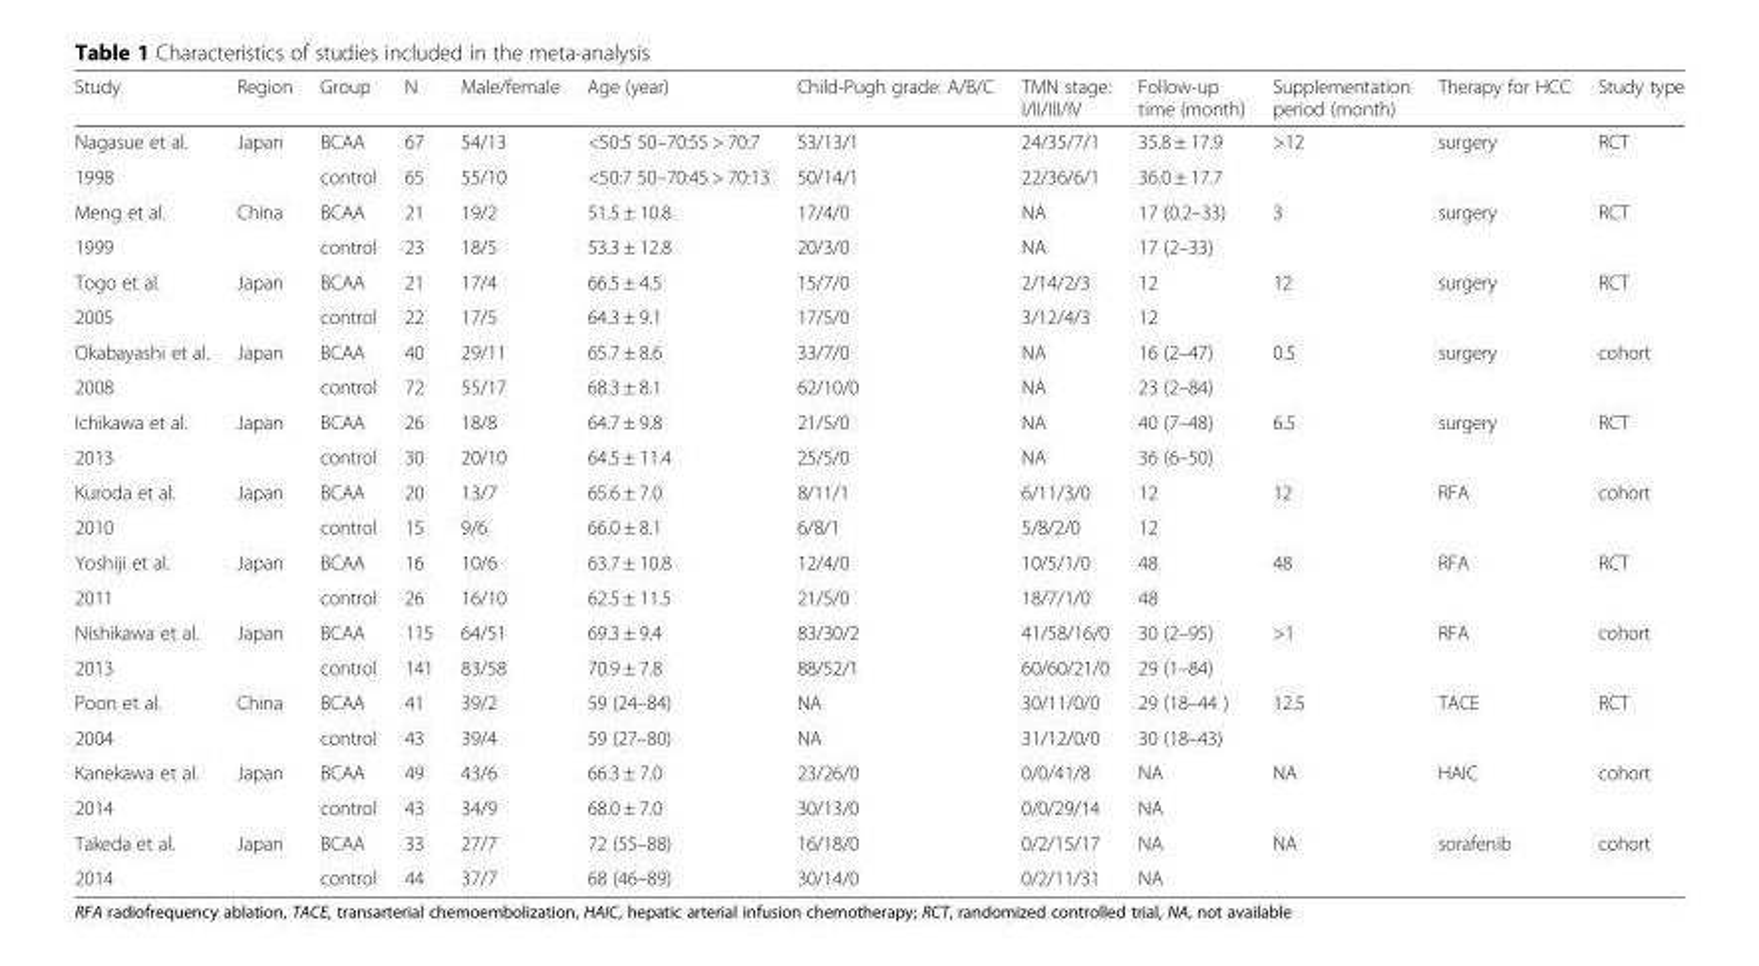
<table><thead><tr><td>Study</td><td>Region</td><td>Group</td><td>N</td><td>Male/female</td><td>Age (year)</td><td>Child-Pugh grade: A/B/C</td><td>TMN stage: I/II/III/IV</td><td>Follow-up time (month)</td><td>Supplementation period (month)</td><td>Therapy for HCC</td><td>Study type</td></tr></thead><tbody><tr><td>Nagasue et al.</td><td>Japan</td><td>BCAA</td><td>67</td><td>54/13</td><td>&lt;50:5 50–70:55 &gt; 70:7</td><td>53/13/1</td><td>24/35/7/1</td><td>35.8 ± 17.9</td><td>&gt;12</td><td>surgery</td><td>RCT</td></tr><tr><td>1998</td><td></td><td>control</td><td>65</td><td>55/10</td><td>&lt;50:7 50–70:45 &gt; 70:13</td><td>50/14/1</td><td>22/36/6/1</td><td>36.0 ± 17.7</td><td></td><td></td><td></td></tr><tr><td>Meng et al.</td><td>China</td><td>BCAA</td><td>21</td><td>19/2</td><td>51.5 ± 10.8</td><td>17/4/0</td><td>NA</td><td>17 (0.2–33)</td><td>3</td><td>surgery</td><td>RCT</td></tr><tr><td>1999</td><td></td><td>control</td><td>23</td><td>18/5</td><td>53.3 ± 12.8</td><td>20/3/0</td><td>NA</td><td>17 (2–33)</td><td></td><td></td><td></td></tr><tr><td>Togo et al.</td><td>Japan</td><td>BCAA</td><td>21</td><td>17/4</td><td>66.5 ± 4.5</td><td>15/7/0</td><td>2/14/2/3</td><td>12</td><td>12</td><td>surgery</td><td>RCT</td></tr><tr><td>2005</td><td></td><td>control</td><td>22</td><td>17/5</td><td>64.3 ± 9.1</td><td>17/5/0</td><td>3/12/4/3</td><td>12</td><td></td><td></td><td></td></tr><tr><td>Okabayashi et al.</td><td>Japan</td><td>BCAA</td><td>40</td><td>29/11</td><td>65.7 ± 8.6</td><td>33/7/0</td><td>NA</td><td>16 (2–47)</td><td>0.5</td><td>surgery</td><td>cohort</td></tr><tr><td>2008</td><td></td><td>control</td><td>72</td><td>55/17</td><td>68.3 ± 8.1</td><td>62/10/0</td><td>NA</td><td>23 (2–84)</td><td></td><td></td><td></td></tr><tr><td>Ichikawa et al.</td><td>Japan</td><td>BCAA</td><td>26</td><td>18/8</td><td>64.7 ± 9.8</td><td>21/5/0</td><td>NA</td><td>40 (7–48)</td><td>6.5</td><td>surgery</td><td>RCT</td></tr><tr><td>2013</td><td></td><td>control</td><td>30</td><td>20/10</td><td>64.5 ± 11.4</td><td>25/5/0</td><td>NA</td><td>36 (6–50)</td><td></td><td></td><td></td></tr><tr><td>Kuroda et al.</td><td>Japan</td><td>BCAA</td><td>20</td><td>13/7</td><td>65.6 ± 7.0</td><td>8/11/1</td><td>6/11/3/0</td><td>12</td><td>12</td><td>RFA</td><td>cohort</td></tr><tr><td>2010</td><td></td><td>control</td><td>15</td><td>9/6</td><td>66.0 ± 8.1</td><td>6/8/1</td><td>5/8/2/0</td><td>12</td><td></td><td></td><td></td></tr><tr><td>Yoshiji et al.</td><td>Japan</td><td>BCAA</td><td>16</td><td>10/6</td><td>63.7 ± 10.8</td><td>12/4/0</td><td>10/5/1/0</td><td>48</td><td>48</td><td>RFA</td><td>RCT</td></tr><tr><td>2011</td><td></td><td>control</td><td>26</td><td>16/10</td><td>62.5 ± 11.5</td><td>21/5/0</td><td>18/7/1/0</td><td>48</td><td></td><td></td><td></td></tr><tr><td>Nishikawa et al.</td><td>Japan</td><td>BCAA</td><td>115</td><td>64/51</td><td>69.3 ± 9.4</td><td>83/30/2</td><td>41/58/16/0</td><td>30 (2–95)</td><td>&gt;1</td><td>RFA</td><td>cohort</td></tr><tr><td>2013</td><td></td><td>control</td><td>141</td><td>83/58</td><td>70.9 ± 7.8</td><td>88/52/1</td><td>60/60/21/0</td><td>29 (1–84)</td><td></td><td></td><td></td></tr><tr><td>Poon et al.</td><td>China</td><td>BCAA</td><td>41</td><td>39/2</td><td>59 (24–84)</td><td>NA</td><td>30/11/0/0</td><td>29 (18–44 )</td><td>12.5</td><td>TACE</td><td>RCT</td></tr><tr><td>2004</td><td></td><td>control</td><td>43</td><td>39/4</td><td>59 (27–80)</td><td>NA</td><td>31/12/0/0</td><td>30 (18–43)</td><td></td><td></td><td></td></tr><tr><td>Kanekawa et al.</td><td>Japan</td><td>BCAA</td><td>49</td><td>43/6</td><td>66.3 ± 7.0</td><td>23/26/0</td><td>0/0/41/8</td><td>NA</td><td>NA</td><td>HAIC</td><td>cohort</td></tr><tr><td>2014</td><td></td><td>control</td><td>43</td><td>34/9</td><td>68.0 ± 7.0</td><td>30/13/0</td><td>0/0/29/14</td><td>NA</td><td></td><td></td><td></td></tr><tr><td>Takeda et al.</td><td>Japan</td><td>BCAA</td><td>33</td><td>27/7</td><td>72 (55–88)</td><td>16/18/0</td><td>0/2/15/17</td><td>NA</td><td>NA</td><td>sorafenib</td><td>cohort</td></tr><tr><td>2014</td><td></td><td>control</td><td>44</td><td>37/7</td><td>68 (46–89)</td><td>30/14/0</td><td>0/2/11/31</td><td>NA</td><td></td><td></td><td></td></tr></tbody></table>